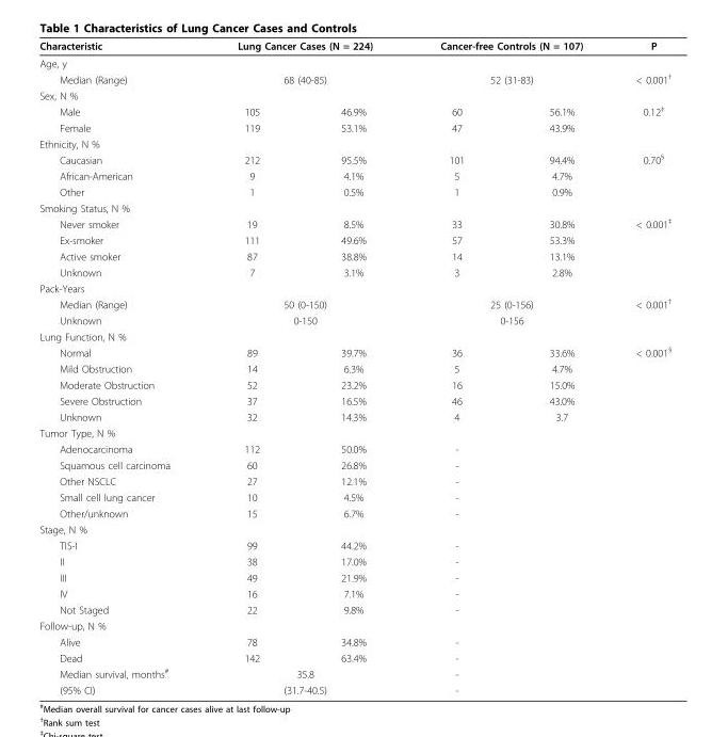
<table><thead><tr><td rowspan="2">Characteristic Age, y</td><td colspan="2">Lung Cancer Cases (N = 224)</td><td colspan="2">Cancer-free Controls (N = 107)</td><td rowspan="2">P</td></tr><tr><td></td><td></td><td></td><td></td></tr></thead><tbody><tr><td>Median (Range)</td><td colspan="2">68 (40-85)</td><td colspan="2">52 (31-83)</td><td>&lt; 0.001<sup>†</sup></td></tr><tr><td colspan="6">Sex, N %</td></tr><tr><td>Male</td><td>105</td><td>46.9%</td><td>60</td><td>56.1%</td><td>0.12<sup>‡</sup></td></tr><tr><td>Female</td><td>119</td><td>53.1%</td><td>47</td><td>43.9%</td><td></td></tr><tr><td colspan="6">Ethnicity, N %</td></tr><tr><td>Caucasian</td><td>212</td><td>95.5%</td><td>101</td><td>94.4%</td><td>0.70<sup>§</sup></td></tr><tr><td>African-American</td><td>9</td><td>4.1%</td><td>5</td><td>4.7%</td><td></td></tr><tr><td>Other</td><td>1</td><td>0.5%</td><td>1</td><td>0.9%</td><td></td></tr><tr><td colspan="6">Smoking Status, N %</td></tr><tr><td>Never smoker</td><td>19</td><td>8.5%</td><td>33</td><td>30.8%</td><td>&lt; 0.001<sup>‡</sup></td></tr><tr><td>Ex-smoker</td><td>111</td><td>49.6%</td><td>57</td><td>53.3%</td><td></td></tr><tr><td>Active smoker</td><td>87</td><td>38.8%</td><td>14</td><td>13.1%</td><td></td></tr><tr><td>Unknown</td><td>7</td><td>3.1%</td><td>3</td><td>2.8%</td><td></td></tr><tr><td colspan="6">Pack-Years</td></tr><tr><td>Median (Range)</td><td colspan="2">50 (0-150)</td><td colspan="2">25 (0-156)</td><td>&lt; 0.001<sup>†</sup></td></tr><tr><td>Unknown</td><td colspan="2">0-150</td><td colspan="2">0-156</td><td></td></tr><tr><td colspan="6">Lung Function, N %</td></tr><tr><td>Normal</td><td>89</td><td>39.7%</td><td>36</td><td>33.6%</td><td>&lt; 0.001<sup>§</sup></td></tr><tr><td>Mild Obstruction</td><td>14</td><td>6.3%</td><td>5</td><td>4.7%</td><td></td></tr><tr><td>Moderate Obstruction</td><td>52</td><td>23.2%</td><td>16</td><td>15.0%</td><td></td></tr><tr><td>Severe Obstruction</td><td>37</td><td>16.5%</td><td>46</td><td>43.0%</td><td></td></tr><tr><td>Unknown</td><td>32</td><td>14.3%</td><td>4</td><td>3.7</td><td></td></tr><tr><td colspan="6">Tumor Type, N %</td></tr><tr><td>Adenocarcinoma</td><td>112</td><td>50.0%</td><td>-</td><td></td><td></td></tr><tr><td>Squamous cell carcinoma</td><td>60</td><td>26.8%</td><td>-</td><td></td><td></td></tr><tr><td>Other NSCLC</td><td>27</td><td>12.1%</td><td>-</td><td></td><td></td></tr><tr><td>Small cell lung cancer</td><td>10</td><td>4.5%</td><td>-</td><td></td><td></td></tr><tr><td>Other/unknown</td><td>15</td><td>6.7%</td><td>-</td><td></td><td></td></tr><tr><td colspan="6">Stage, N %</td></tr><tr><td>TIS-I</td><td>99</td><td>44.2%</td><td>-</td><td></td><td></td></tr><tr><td>II</td><td>38</td><td>17.0%</td><td>-</td><td></td><td></td></tr><tr><td>III</td><td>49</td><td>21.9%</td><td>-</td><td></td><td></td></tr><tr><td>IV</td><td>16</td><td>7.1%</td><td>-</td><td></td><td></td></tr><tr><td>Not Staged</td><td>22</td><td>9.8%</td><td>-</td><td></td><td></td></tr><tr><td colspan="6">Follow-up, N %</td></tr><tr><td>Alive</td><td>78</td><td>34.8%</td><td>-</td><td></td><td></td></tr><tr><td>Dead</td><td>142</td><td>63.4%</td><td>-</td><td></td><td></td></tr><tr><td>Median survival, months<sup>#</sup></td><td colspan="2">35.8</td><td>-</td><td></td><td></td></tr><tr><td>(95% CI)</td><td colspan="2">(31.7-40.5)</td><td>-</td><td></td><td></td></tr></tbody></table>